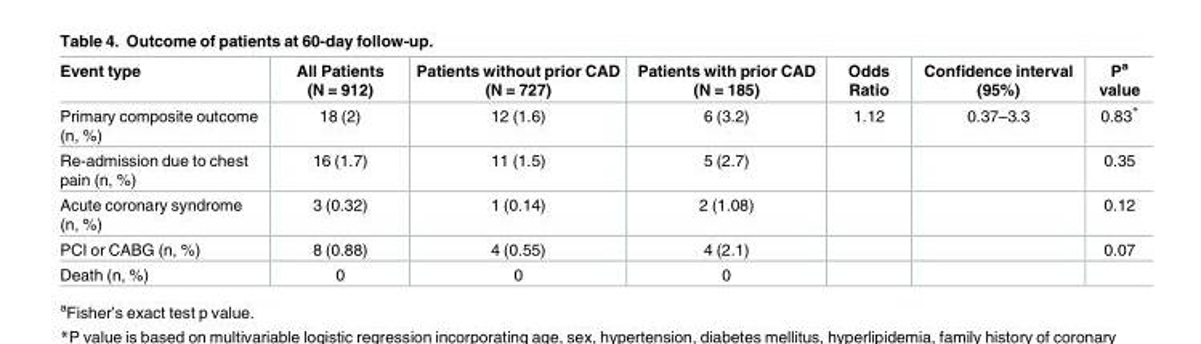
<table><thead><tr><td>Event type</td><td>All Patients (N = 912)</td><td>Patients without prior CAD (N = 727)</td><td>Patients with prior CAD (N = 185)</td><td>Odds Ratio</td><td>Confidence interval (95%)</td><td>P<sup>a</sup> value</td></tr></thead><tbody><tr><td>Primary composite outcome (n, %)</td><td>18 (2)</td><td>12 (1.6)</td><td>6 (3.2)</td><td>1.12</td><td>0.37–3.3</td><td>0.83*</td></tr><tr><td>Re-admission due to chest pain (n, %)</td><td>16 (1.7)</td><td>11 (1.5)</td><td>5 (2.7)</td><td></td><td></td><td>0.35</td></tr><tr><td>Acute coronary syndrome (n, %)</td><td>3 (0.32)</td><td>1 (0.14)</td><td>2 (1.08)</td><td></td><td></td><td>0.12</td></tr><tr><td>PCI or CABG (n, %)</td><td>8 (0.88)</td><td>4 (0.55)</td><td>4 (2.1)</td><td></td><td></td><td>0.07</td></tr><tr><td>Death (n, %)</td><td>0</td><td>0</td><td>0</td><td></td><td></td><td></td></tr></tbody></table>